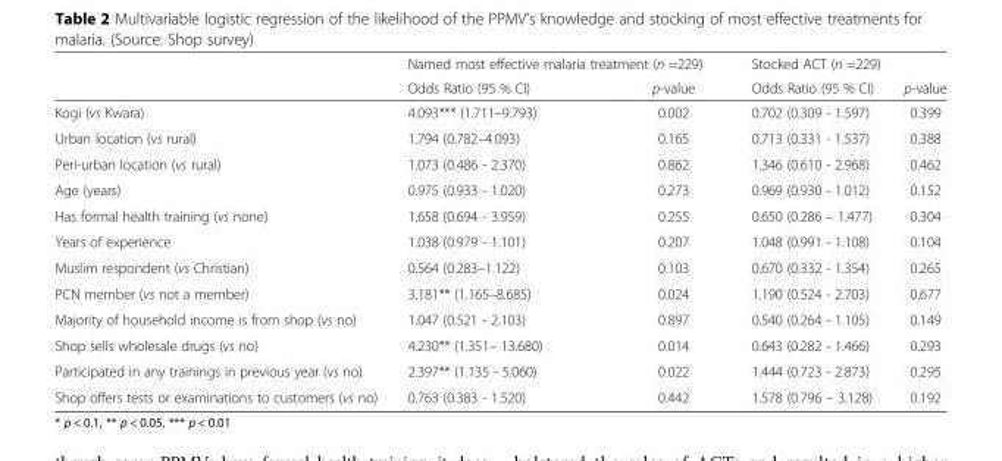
<table><thead><tr><td rowspan="2"></td><td colspan="2">Named most effective malaria treatment (n =229)</td><td colspan="2">Stocked ACT (n =229)</td></tr><tr><td>Odds Ratio (95 % CI)</td><td>p-value</td><td>Odds Ratio (95 % CI)</td><td>p-value</td></tr></thead><tbody><tr><td>Kogi (vs Kwara)</td><td>4.093*** (1.711–9.793)</td><td>0.002</td><td>0.702 (0.309 - 1.597)</td><td>0.399</td></tr><tr><td>Urban location (vs rural)</td><td>1.794 (0.782–4.093)</td><td>0.165</td><td>0.713 (0.331 - 1.537)</td><td>0.388</td></tr><tr><td>Peri-urban location (vs rural)</td><td>1.073 (0.486 - 2.370)</td><td>0.862</td><td>1.346 (0.610 - 2.968)</td><td>0.462</td></tr><tr><td>Age (years)</td><td>0.975 (0.933 - 1.020)</td><td>0.273</td><td>0.969 (0.930 - 1.012)</td><td>0.152</td></tr><tr><td>Has formal health training (vs none)</td><td>1.658 (0.694 - 3.959)</td><td>0.255</td><td>0.650 (0.286 – 1.477)</td><td>0.304</td></tr><tr><td>Years of experience</td><td>1.038 (0.979 - 1.101)</td><td>0.207</td><td>1.048 (0.991 - 1.108)</td><td>0.104</td></tr><tr><td>Muslim respondent (vs Christian)</td><td>0.564 (0.283–1.122)</td><td>0.103</td><td>0.670 (0.332 - 1.354)</td><td>0.265</td></tr><tr><td>PCN member (vs not a member)</td><td>3.181** (1.165–8.685)</td><td>0.024</td><td>1.190 (0.524 - 2.703)</td><td>0.677</td></tr><tr><td>Majority of household income is from shop (vs no)</td><td>1.047 (0.521 - 2.103)</td><td>0.897</td><td>0.540 (0.264 - 1.105)</td><td>0.149</td></tr><tr><td>Shop sells wholesale drugs (vs no)</td><td>4.230** (1.351– 13.680)</td><td>0.014</td><td>0.643 (0.282 - 1.466)</td><td>0.293</td></tr><tr><td>Participated in any trainings in previous year (vs no)</td><td>2.397** (1.135 - 5.060)</td><td>0.022</td><td>1.444 (0.723 - 2.873)</td><td>0.295</td></tr><tr><td>Shop offers tests or examinations to customers (vs no)</td><td>0.763 (0.383 - 1.520)</td><td>0.442</td><td>1.578 (0.796 – 3.128)</td><td>0.192</td></tr></tbody></table>